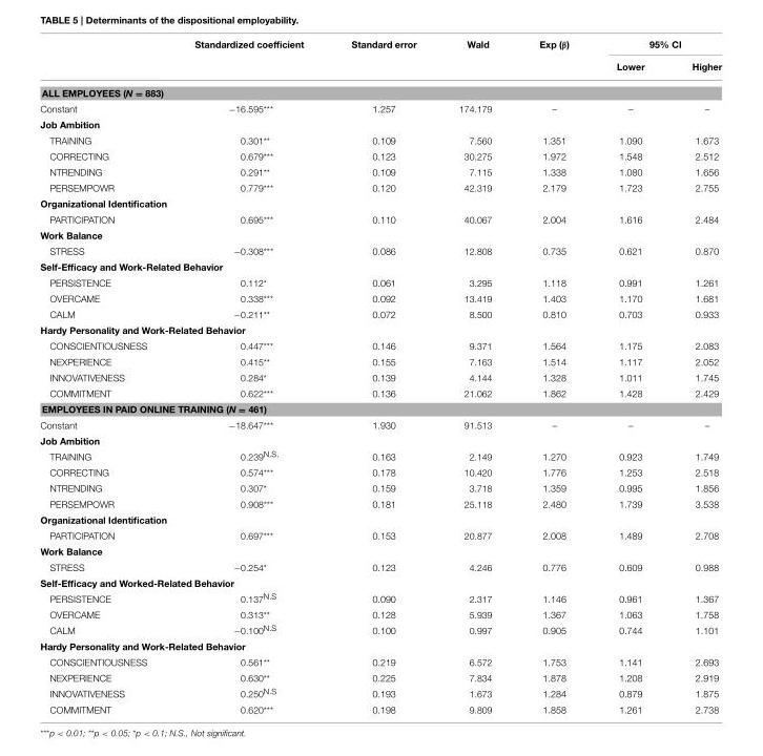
<table><thead><tr><td rowspan="2"></td><td rowspan="2">Standardized coefficient</td><td rowspan="2">Standard error</td><td rowspan="2">Wald</td><td rowspan="2">Exp (β)</td><td colspan="2">95% CI</td></tr><tr><td>Lower</td><td>Higher</td></tr></thead><tbody><tr><td colspan="7">ALL EMPLOYEES (N = 883)</td></tr><tr><td>Constant</td><td>−16.595***</td><td>1.257</td><td>174.179</td><td>–</td><td>–</td><td>–</td></tr><tr><td colspan="7">Job Ambition</td></tr><tr><td>TRAINING</td><td>0.301**</td><td>0.109</td><td>7.560</td><td>1.351</td><td>1.090</td><td>1.673</td></tr><tr><td>CORRECTING</td><td>0.679***</td><td>0.123</td><td>30.275</td><td>1.972</td><td>1.548</td><td>2.512</td></tr><tr><td>NTRENDING</td><td>0.291**</td><td>0.109</td><td>7.115</td><td>1.338</td><td>1.080</td><td>1.656</td></tr><tr><td>PERSEMPOWR</td><td>0.779***</td><td>0.120</td><td>42.319</td><td>2.179</td><td>1.723</td><td>2.755</td></tr><tr><td colspan="7">Organizational Identification</td></tr><tr><td>PARTICIPATION</td><td>0.695***</td><td>0.110</td><td>40.067</td><td>2.004</td><td>1.616</td><td>2.484</td></tr><tr><td colspan="7">Work Balance</td></tr><tr><td>STRESS</td><td>−0.308***</td><td>0.086</td><td>12.808</td><td>0.735</td><td>0.621</td><td>0.870</td></tr><tr><td colspan="7">Self-Efficacy and Work-Related Behavior</td></tr><tr><td>PERSISTENCE</td><td>0.112*</td><td>0.061</td><td>3.295</td><td>1.118</td><td>0.991</td><td>1.261</td></tr><tr><td>OVERCAME</td><td>0.338***</td><td>0.092</td><td>13.419</td><td>1.403</td><td>1.170</td><td>1.681</td></tr><tr><td>CALM</td><td>−0.211**</td><td>0.072</td><td>8.500</td><td>0.810</td><td>0.703</td><td>0.933</td></tr><tr><td colspan="7">Hardy Personality and Work-Related Behavior</td></tr><tr><td>CONSCIENTIOUSNESS</td><td>0.447***</td><td>0.146</td><td>9.371</td><td>1.564</td><td>1.175</td><td>2.083</td></tr><tr><td>NEXPERIENCE</td><td>0.415**</td><td>0.155</td><td>7.163</td><td>1.514</td><td>1.117</td><td>2.052</td></tr><tr><td>INNOVATIVENESS</td><td>0.284*</td><td>0.139</td><td>4.144</td><td>1.328</td><td>1.011</td><td>1.745</td></tr><tr><td>COMMITMENT</td><td>0.622***</td><td>0.136</td><td>21.062</td><td>1.862</td><td>1.428</td><td>2.429</td></tr><tr><td colspan="7">EMPLOYEES IN PAID ONLINE TRAINING (N = 461)</td></tr><tr><td>Constant</td><td>−18.647***</td><td>1.930</td><td>91.513</td><td>–</td><td>–</td><td>–</td></tr><tr><td colspan="7">Job Ambition</td></tr><tr><td>TRAINING</td><td>0.239<sup>N.S.</sup></td><td>0.163</td><td>2.149</td><td>1.270</td><td>0.923</td><td>1.749</td></tr><tr><td>CORRECTING</td><td>0.574***</td><td>0.178</td><td>10.420</td><td>1.776</td><td>1.253</td><td>2.518</td></tr><tr><td>NTRENDING</td><td>0.307*</td><td>0.159</td><td>3.718</td><td>1.359</td><td>0.995</td><td>1.856</td></tr><tr><td>PERSEMPOWR</td><td>0.908***</td><td>0.181</td><td>25.118</td><td>2.480</td><td>1.739</td><td>3.538</td></tr><tr><td colspan="7">Organizational Identification</td></tr><tr><td>PARTICIPATION</td><td>0.697***</td><td>0.153</td><td>20.877</td><td>2.008</td><td>1.489</td><td>2.708</td></tr><tr><td colspan="7">Work Balance</td></tr><tr><td>STRESS</td><td>−0.254*</td><td>0.123</td><td>4.246</td><td>0.776</td><td>0.609</td><td>0.988</td></tr><tr><td colspan="7">Self-Efficacy and Worked-Related Behavior</td></tr><tr><td>PERSISTENCE</td><td>0.137<sup>N.S</sup></td><td>0.090</td><td>2.317</td><td>1.146</td><td>0.961</td><td>1.367</td></tr><tr><td>OVERCAME</td><td>0.313**</td><td>0.128</td><td>5.939</td><td>1.367</td><td>1.063</td><td>1.758</td></tr><tr><td>CALM</td><td>−0.100<sup>N.S</sup></td><td>0.100</td><td>0.997</td><td>0.905</td><td>0.744</td><td>1.101</td></tr><tr><td colspan="7">Hardy Personality and Work-Related Behavior</td></tr><tr><td>CONSCIENTIOUSNESS</td><td>0.561**</td><td>0.219</td><td>6.572</td><td>1.753</td><td>1.141</td><td>2.693</td></tr><tr><td>NEXPERIENCE</td><td>0.630**</td><td>0.225</td><td>7.834</td><td>1.878</td><td>1.208</td><td>2.919</td></tr><tr><td>INNOVATIVENESS</td><td>0.250<sup>N.S</sup></td><td>0.193</td><td>1.673</td><td>1.284</td><td>0.879</td><td>1.875</td></tr><tr><td>COMMITMENT</td><td>0.620***</td><td>0.198</td><td>9.809</td><td>1.858</td><td>1.261</td><td>2.738</td></tr></tbody></table>